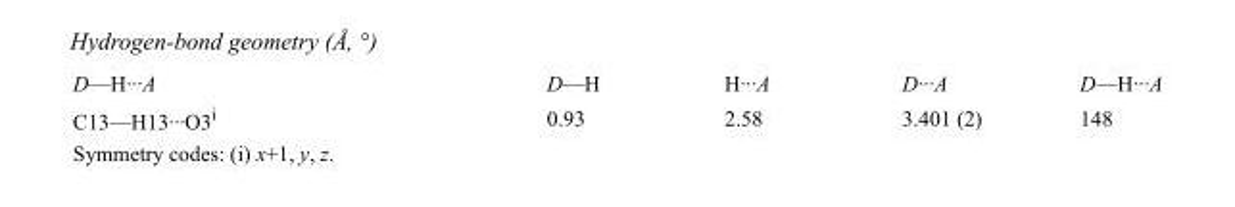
<table><tbody><tr><td>D—H···A</td><td>D—H</td><td>H···A</td><td>D···A</td><td>D—H···A</td></tr><tr><td>C13—H13···O3<sup>i</sup></td><td>0.93</td><td>2.58</td><td>3.401 (2)</td><td>148</td></tr></tbody></table>